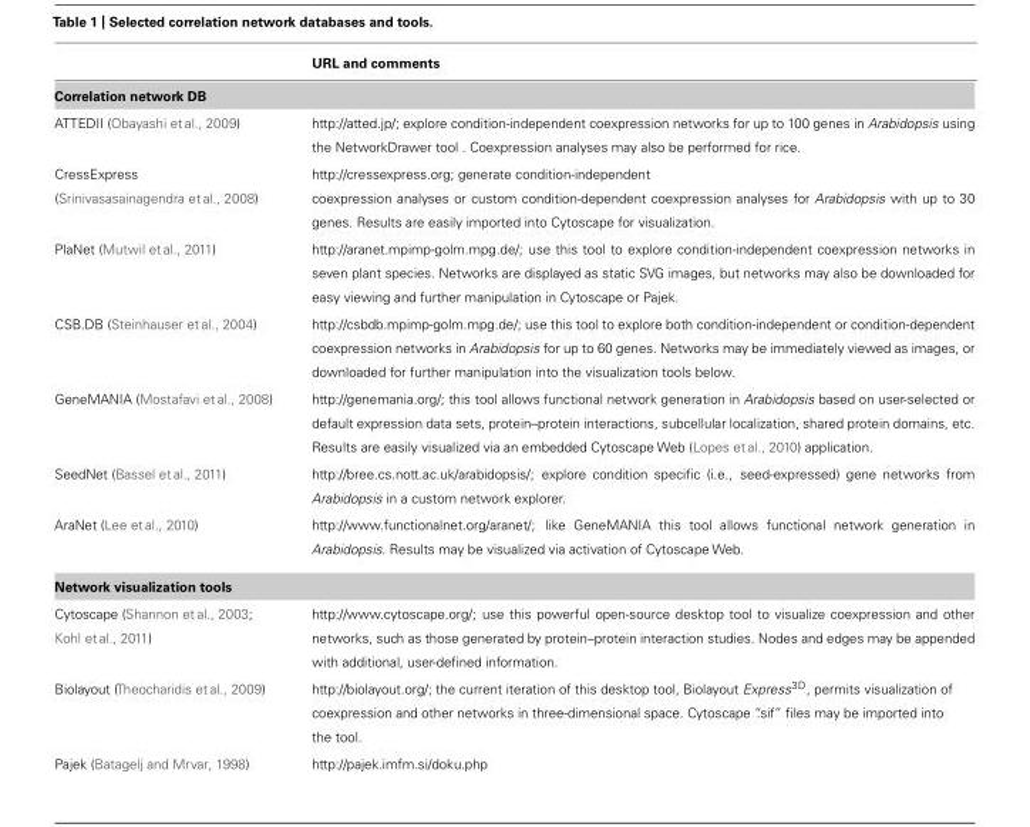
<table><thead><tr><td rowspan="2" colspan="2">URL and comments Correlation network DB</td></tr><tr></tr><tr><td>ATTEDII (Obayashi et al., 2009)</td><td>http://atted.jp/; explore condition-independent coexpression networks for up to 100 genes in Arabidopsis using the NetworkDrawer tool . Coexpression analyses may also be performed for rice.</td></tr></thead><tbody><tr><td>CressExpress (Srinivasasainagendra et al., 2008)</td><td>http://cressexpress.org; generate condition-independent coexpression analyses or custom condition-dependent coexpression analyses for Arabidopsis with up to 30 genes. Results are easily imported into Cytoscape for visualization.</td></tr><tr><td>PlaNet (Mutwil et al., 2011)</td><td>http://aranet.mpimp-golm.mpg.de/; use this tool to explore condition-independent coexpression networks in seven plant species. Networks are displayed as static SVG images, but networks may also be downloaded for easy viewing and further manipulation in Cytoscape or Pajek.</td></tr><tr><td>CSB.DB (Steinhauser et al., 2004)</td><td>http://csbdb.mpimp-golm.mpg.de/; use this tool to explore both condition-independent or condition-dependent coexpression networks in Arabidopsis for up to 60 genes. Networks may be immediately viewed as images, or downloaded for further manipulation into the visualization tools below.</td></tr><tr><td>GeneMANIA (Mostafavi et al., 2008)</td><td>http://genemania.org/; this tool allows functional network generation in Arabidopsis based on user-selected or default expression data sets, protein–protein interactions, subcellular localization, shared protein domains, etc. Results are easily visualized via an embedded Cytoscape Web (Lopes et al., 2010) application.</td></tr><tr><td>SeedNet (Bassel et al., 2011)</td><td>http://bree.cs.nott.ac.uk/arabidopsis/; explore condition specific (i.e., seed-expressed) gene networks from Arabidopsis in a custom network explorer.</td></tr><tr><td>AraNet (Lee et al., 2010)</td><td>http://www.functionalnet.org/aranet/; like GeneMANIA this tool allows functional network generation in Arabidopsis. Results may be visualized via activation of Cytoscape Web.</td></tr><tr><td colspan="2">Network visualization tools</td></tr><tr><td>Cytoscape (Shannon et al., 2003; Kohl et al., 2011)</td><td>http://www.cytoscape.org/; use this powerful open-source desktop tool to visualize coexpression and other networks, such as those generated by protein–protein interaction studies. Nodes and edges may be appended with additional, user-defined information.</td></tr><tr><td>Biolayout (Theocharidis et al., 2009)</td><td>http://biolayout.org/; the current iteration of this desktop tool, Biolayout Express<sup>3D</sup>, permits visualization of coexpression and other networks in three-dimensional space. Cytoscape “.sif” files may be imported into the tool.</td></tr><tr><td>Pajek (Batagelj and Mrvar, 1998)</td><td>http://pajek.imfm.si/doku.php</td></tr></tbody></table>